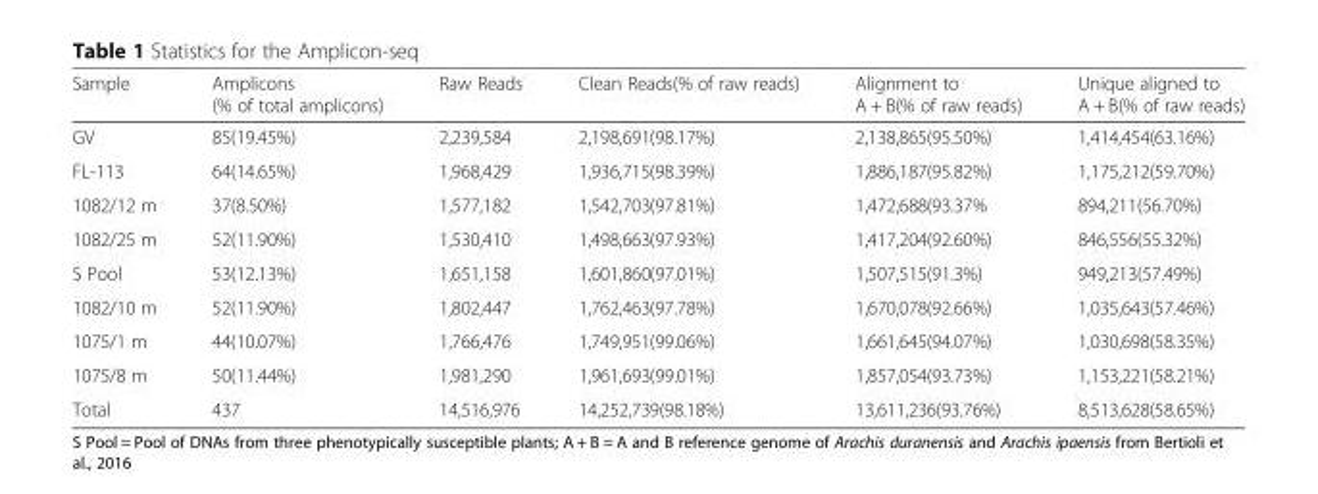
<table><thead><tr><td>Sample</td><td>Amplicons (% of total amplicons)</td><td>Raw Reads</td><td>Clean Reads(% of raw reads)</td><td>Alignment to A + B(% of raw reads)</td><td>Unique aligned to A + B(% of raw reads)</td></tr></thead><tbody><tr><td>GV</td><td>85(19.45%)</td><td>2,239,584</td><td>2,198,691(98.17%)</td><td>2,138,865(95.50%)</td><td>1,414,454(63.16%)</td></tr><tr><td>FL-113</td><td>64(14.65%)</td><td>1,968,429</td><td>1,936,715(98.39%)</td><td>1,886,187(95.82%)</td><td>1,175,212(59.70%)</td></tr><tr><td>1082/12 m</td><td>37(8.50%)</td><td>1,577,182</td><td>1,542,703(97.81%)</td><td>1,472,688(93.37%</td><td>894,211(56.70%)</td></tr><tr><td>1082/25 m</td><td>52(11.90%)</td><td>1,530,410</td><td>1,498,663(97.93%)</td><td>1,417,204(92.60%)</td><td>846,556(55.32%)</td></tr><tr><td>S Pool</td><td>53(12.13%)</td><td>1,651,158</td><td>1,601,860(97.01%)</td><td>1,507,515(91.3%)</td><td>949,213(57.49%)</td></tr><tr><td>1082/10 m</td><td>52(11.90%)</td><td>1,802,447</td><td>1,762,463(97.78%)</td><td>1,670,078(92.66%)</td><td>1,035,643(57.46%)</td></tr><tr><td>1075/1 m</td><td>44(10.07%)</td><td>1,766,476</td><td>1,749,951(99.06%)</td><td>1,661,645(94.07%)</td><td>1,030,698(58.35%)</td></tr><tr><td>1075/8 m</td><td>50(11.44%)</td><td>1,981,290</td><td>1,961,693(99.01%)</td><td>1,857,054(93.73%)</td><td>1,153,221(58.21%)</td></tr><tr><td>Total</td><td>437</td><td>14,516,976</td><td>14,252,739(98.18%)</td><td>13,611,236(93.76%)</td><td>8,513,628(58.65%)</td></tr></tbody></table>